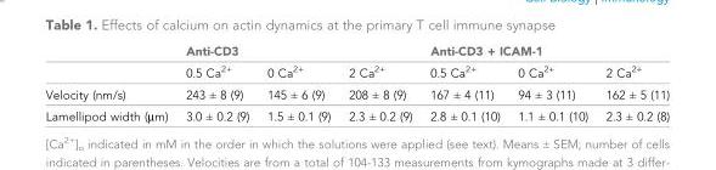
<table><thead><tr><td rowspan="2"></td><td colspan="3">Anti-CD3</td><td colspan="3">Anti-CD3 + ICAM-1</td></tr><tr><td>0.5 Ca<sup>2+</sup></td><td>0 Ca<sup>2+</sup></td><td>2 Ca<sup>2+</sup></td><td>0.5 Ca<sup>2+</sup></td><td>0 Ca<sup>2+</sup></td><td>2 Ca<sup>2+</sup></td></tr></thead><tbody><tr><td>Velocity (nm/s)</td><td>243 ± 8 (9)</td><td>145 ± 6 (9)</td><td>208 ± 8 (9)</td><td>167 ± 4 (11)</td><td>94 ± 3 (11)</td><td>162 ± 5 (11)</td></tr><tr><td>Lamellipod width (µm)</td><td>3.0 ± 0.2 (9)</td><td>1.5 ± 0.1 (9)</td><td>2.3 ± 0.2 (9)</td><td>2.8 ± 0.1 (10)</td><td>1.1 ± 0.1 (10)</td><td>2.3 ± 0.2 (8)</td></tr></tbody></table>